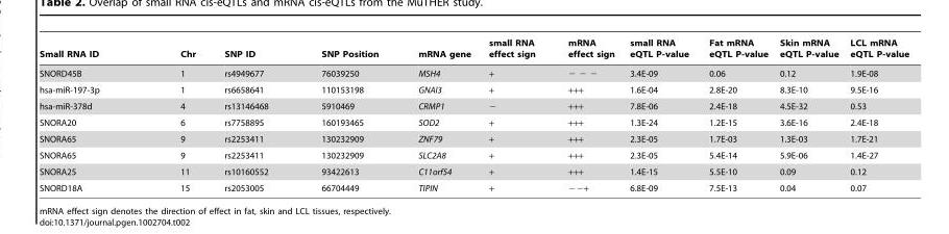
<table><thead><tr><td>Small RNA ID</td><td>Chr</td><td>SNP ID</td><td>SNP Position</td><td>mRNA gene</td><td>small RNA effect sign</td><td>mRNA effect sign</td><td>small RNA eQTL P-value</td><td>Fat mRNA eQTL P-value</td><td>Skin mRNA eQTL P-value</td><td>LCL mRNA eQTL P-value</td></tr></thead><tbody><tr><td>SNORD45B</td><td>1</td><td>rs4949677</td><td>76039250</td><td>MSH4</td><td>+</td><td>− − −</td><td>3.4E-09</td><td>0.06</td><td>0.12</td><td>1.9E-08</td></tr><tr><td>hsa-miR-197-3p</td><td>1</td><td>rs6658641</td><td>110153198</td><td>GNAI3</td><td>+</td><td>+++</td><td>1.6E-04</td><td>2.8E-20</td><td>8.3E-10</td><td>9.5E-16</td></tr><tr><td>hsa-miR-378d</td><td>4</td><td>rs13146468</td><td>5910469</td><td>CRMP1</td><td>−</td><td>+++</td><td>7.8E-06</td><td>2.4E-18</td><td>4.5E-32</td><td>0.53</td></tr><tr><td>SNORA20</td><td>6</td><td>rs7758895</td><td>160193465</td><td>SOD2</td><td>+</td><td>+++</td><td>1.3E-24</td><td>1.2E-15</td><td>3.6E-16</td><td>2.4E-18</td></tr><tr><td>SNORA65</td><td>9</td><td>rs2253411</td><td>130232909</td><td>ZNF79</td><td>+</td><td>+++</td><td>2.3E-05</td><td>1.7E-03</td><td>1.3E-03</td><td>1.7E-21</td></tr><tr><td>SNORA65</td><td>9</td><td>rs2253411</td><td>130232909</td><td>SLC2A8</td><td>+</td><td>+++</td><td>2.3E-05</td><td>5.4E-14</td><td>5.9E-06</td><td>1.4E-27</td></tr><tr><td>SNORA25</td><td>11</td><td>rs10160552</td><td>93422613</td><td>C11orf54</td><td>+</td><td>+++</td><td>1.4E-15</td><td>5.5E-10</td><td>0.09</td><td>0.12</td></tr><tr><td>SNORD18A</td><td>15</td><td>rs2053005</td><td>66704449</td><td>TIPIN</td><td>+</td><td>−−+</td><td>6.8E-09</td><td>7.5E-13</td><td>0.04</td><td>0.07</td></tr></tbody></table>